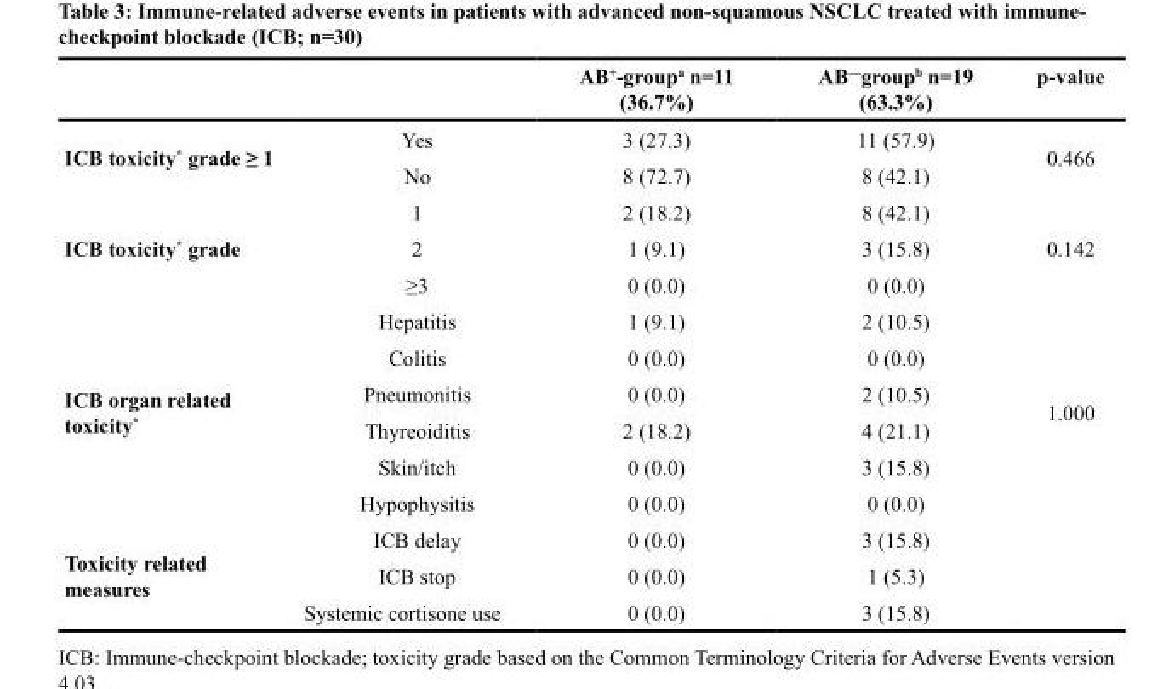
<table><thead><tr><td></td><td></td><td>AB<sup>+</sup>-group<sup>a</sup> n=11 (36.7%)</td><td>AB<sup>—</sup>group<sup>b</sup> n=19 (63.3%)</td><td>p-value</td></tr></thead><tbody><tr><td rowspan="2">ICB toxicity* grade ≥ 1</td><td>Yes</td><td>3 (27.3)</td><td>11 (57.9)</td><td rowspan="2">0.466</td></tr><tr><td>No</td><td>8 (72.7)</td><td>8 (42.1)</td></tr><tr><td rowspan="3">ICB toxicity* grade</td><td>1</td><td>2 (18.2)</td><td>8 (42.1)</td><td rowspan="3">0.142</td></tr><tr><td>2</td><td>1 (9.1)</td><td>3 (15.8)</td></tr><tr><td>≥3</td><td>0 (0.0)</td><td>0 (0.0)</td></tr><tr><td rowspan="6">ICB organ related toxicity*</td><td>Hepatitis</td><td>1 (9.1)</td><td>2 (10.5)</td><td rowspan="6">1.000</td></tr><tr><td>Colitis</td><td>0 (0.0)</td><td>0 (0.0)</td></tr><tr><td>Pneumonitis</td><td>0 (0.0)</td><td>2 (10.5)</td></tr><tr><td>Thyreoiditis</td><td>2 (18.2)</td><td>4 (21.1)</td></tr><tr><td>Skin/itch</td><td>0 (0.0)</td><td>3 (15.8)</td></tr><tr><td>Hypophysitis</td><td>0 (0.0)</td><td>0 (0.0)</td></tr><tr><td rowspan="3">Toxicity related measures</td><td>ICB delay</td><td>0 (0.0)</td><td>3 (15.8)</td><td rowspan="3"></td></tr><tr><td>ICB stop</td><td>0 (0.0)</td><td>1 (5.3)</td></tr><tr><td>Systemic cortisone use</td><td>0 (0.0)</td><td>3 (15.8)</td></tr></tbody></table>